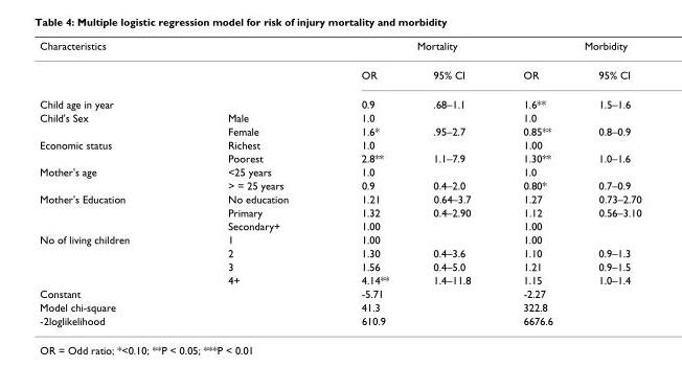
<table><thead><tr><td rowspan="2">Characteristics</td><td rowspan="2"></td><td colspan="2">Mortality</td><td colspan="2">Morbidity</td></tr><tr><td>OR</td><td>95% CI</td><td>OR</td><td>95% CI</td></tr></thead><tbody><tr><td>Child age in year</td><td></td><td>0.9</td><td>.68–1.1</td><td>1.6**</td><td>1.5–1.6</td></tr><tr><td rowspan="2">Child&#x27;s Sex</td><td>Male</td><td>1.0</td><td></td><td>1.0</td><td></td></tr><tr><td>Female</td><td>1.6*</td><td>.95–2.7</td><td>0.85**</td><td>0.8–0.9</td></tr><tr><td rowspan="2">Economic status</td><td>Richest</td><td>1.0</td><td></td><td>1.00</td><td></td></tr><tr><td>Poorest</td><td>2.8**</td><td>1.1–7.9</td><td>1.30**</td><td>1.0–1.6</td></tr><tr><td rowspan="2">Mother&#x27;s age</td><td>&lt;25 years</td><td>1.0</td><td></td><td>1.0</td><td></td></tr><tr><td>&gt; = 25 years</td><td>0.9</td><td>0.4–2.0</td><td>0.80*</td><td>0.7–0.9</td></tr><tr><td rowspan="3">Mother&#x27;s Education</td><td>No education</td><td>1.21</td><td>0.64–3.7</td><td>1.27</td><td>0.73–2.70</td></tr><tr><td>Primary</td><td>1.32</td><td>0.4–2.90</td><td>1.12</td><td>0.56–3.10</td></tr><tr><td>Secondary+</td><td>1.00</td><td></td><td>1.00</td><td></td></tr><tr><td rowspan="4">No of living children</td><td>1</td><td>1.00</td><td></td><td>1.00</td><td></td></tr><tr><td>2</td><td>1.30</td><td>0.4–3.6</td><td>1.10</td><td>0.9–1.3</td></tr><tr><td>3</td><td>1.56</td><td>0.4–5.0</td><td>1.21</td><td>0.9–1.5</td></tr><tr><td>4+</td><td>4.14**</td><td>1.4–11.8</td><td>1.15</td><td>1.0–1.4</td></tr><tr><td>Constant</td><td></td><td>-5.71</td><td></td><td>-2.27</td><td></td></tr><tr><td>Model chi-square</td><td></td><td>41.3</td><td></td><td>322.8</td><td></td></tr><tr><td>-2loglikelihood</td><td></td><td>610.9</td><td></td><td>6676.6</td><td></td></tr></tbody></table>